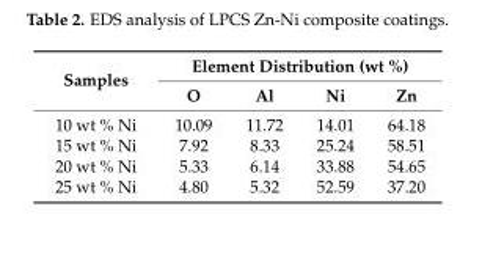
<table><thead><tr><td rowspan="2">Samples</td><td colspan="4">Element Distribution (wt %)</td></tr><tr><td>O</td><td>Al</td><td>Ni</td><td>Zn</td></tr></thead><tbody><tr><td>10 wt % Ni</td><td>10.09</td><td>11.72</td><td>14.01</td><td>64.18</td></tr><tr><td>15 wt % Ni</td><td>7.92</td><td>8.33</td><td>25.24</td><td>58.51</td></tr><tr><td>20 wt % Ni</td><td>5.33</td><td>6.14</td><td>33.88</td><td>54.65</td></tr><tr><td>25 wt % Ni</td><td>4.80</td><td>5.32</td><td>52.59</td><td>37.20</td></tr></tbody></table>